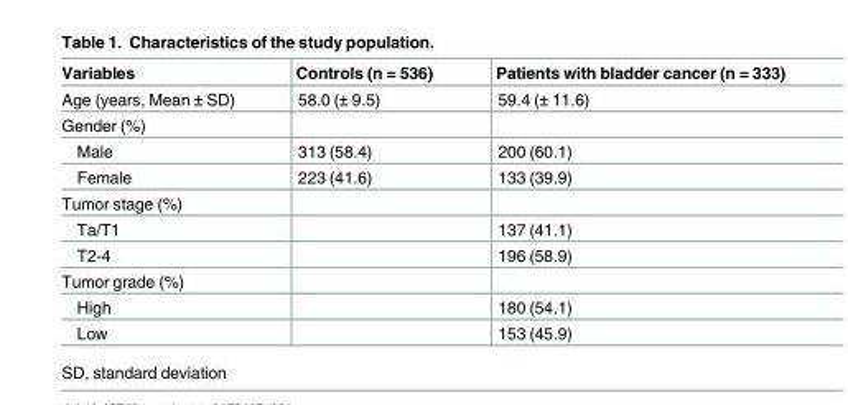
<table><thead><tr><td>Variables</td><td>Controls (n = 536)</td><td>Patients with bladder cancer (n = 333)</td></tr></thead><tbody><tr><td>Age (years, Mean ± SD)</td><td>58.0 (± 9.5)</td><td>59.4 (± 11.6)</td></tr><tr><td colspan="3">Gender (%)</td></tr><tr><td>Male</td><td>313 (58.4)</td><td>200 (60.1)</td></tr><tr><td>Female</td><td>223 (41.6)</td><td>133 (39.9)</td></tr><tr><td colspan="3">Tumor stage (%)</td></tr><tr><td>Ta/T1</td><td></td><td>137 (41.1)</td></tr><tr><td>T2-4</td><td></td><td>196 (58.9)</td></tr><tr><td colspan="3">Tumor grade (%)</td></tr><tr><td>High</td><td></td><td>180 (54.1)</td></tr><tr><td>Low</td><td></td><td>153 (45.9)</td></tr></tbody></table>